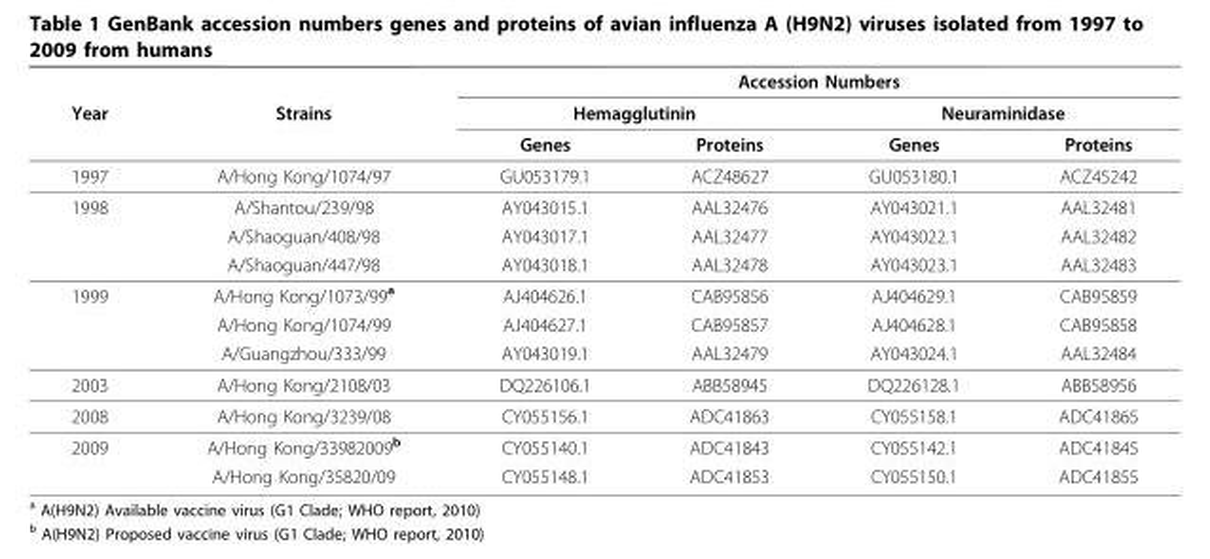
<table><thead><tr><td rowspan="3">Year</td><td rowspan="3">Strains</td><td colspan="4">Accession Numbers</td></tr><tr><td colspan="2">Hemagglutinin</td><td colspan="2">Neuraminidase</td></tr><tr><td>Genes</td><td>Proteins</td><td>Genes</td><td>Proteins</td></tr></thead><tbody><tr><td>1997</td><td>A/Hong Kong/1074/97</td><td>GU053179.1</td><td>ACZ48627</td><td>GU053180.1</td><td>ACZ45242</td></tr><tr><td rowspan="3">1998</td><td>A/Shantou/239/98</td><td>AY043015.1</td><td>AAL32476</td><td>AY043021.1</td><td>AAL32481</td></tr><tr><td>A/Shaoguan/408/98</td><td>AY043017.1</td><td>AAL32477</td><td>AY043022.1</td><td>AAL32482</td></tr><tr><td>A/Shaoguan/447/98</td><td>AY043018.1</td><td>AAL32478</td><td>AY043023.1</td><td>AAL32483</td></tr><tr><td rowspan="3">1999</td><td>A/Hong Kong/1073/99<sup>a</sup></td><td>AJ404626.1</td><td>CAB95856</td><td>AJ404629.1</td><td>CAB95859</td></tr><tr><td>A/Hong Kong/1074/99</td><td>AJ404627.1</td><td>CAB95857</td><td>AJ404628.1</td><td>CAB95858</td></tr><tr><td>A/Guangzhou/333/99</td><td>AY043019.1</td><td>AAL32479</td><td>AY043024.1</td><td>AAL32484</td></tr><tr><td>2003</td><td>A/Hong Kong/2108/03</td><td>DQ226106.1</td><td>ABB58945</td><td>DQ226128.1</td><td>ABB58956</td></tr><tr><td>2008</td><td>A/Hong Kong/3239/08</td><td>CY055156.1</td><td>ADC41863</td><td>CY055158.1</td><td>ADC41865</td></tr><tr><td rowspan="2">2009</td><td>A/Hong Kong/33982009<sup>b</sup></td><td>CY055140.1</td><td>ADC41843</td><td>CY055142.1</td><td>ADC41845</td></tr><tr><td>A/Hong Kong/35820/09</td><td>CY055148.1</td><td>ADC41853</td><td>CY055150.1</td><td>ADC41855</td></tr></tbody></table>